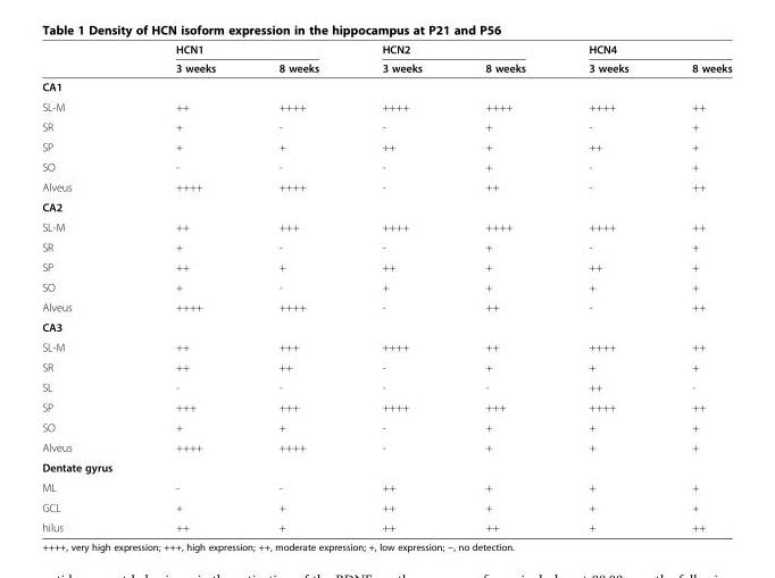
<table><thead><tr><td rowspan="2"></td><td colspan="2">HCN1</td><td colspan="2">HCN2</td><td colspan="2">HCN4</td></tr><tr><td>3 weeks</td><td>8 weeks</td><td>3 weeks</td><td>8 weeks</td><td>3 weeks</td><td>8 weeks</td></tr></thead><tbody><tr><td colspan="7">CA1</td></tr><tr><td>SL-M</td><td>++</td><td>++++</td><td>++++</td><td>++++</td><td>++++</td><td>++</td></tr><tr><td>SR</td><td>+</td><td>-</td><td>-</td><td>+</td><td>-</td><td>+</td></tr><tr><td>SP</td><td>+</td><td>+</td><td>++</td><td>+</td><td>++</td><td>+</td></tr><tr><td>SO</td><td>-</td><td>-</td><td>-</td><td>+</td><td>-</td><td>+</td></tr><tr><td>Alveus</td><td>++++</td><td>++++</td><td>-</td><td>++</td><td>-</td><td>++</td></tr><tr><td colspan="7">CA2</td></tr><tr><td>SL-M</td><td>++</td><td>+++</td><td>++++</td><td>++++</td><td>++++</td><td>++</td></tr><tr><td>SR</td><td>+</td><td>-</td><td>-</td><td>+</td><td>-</td><td>+</td></tr><tr><td>SP</td><td>++</td><td>+</td><td>++</td><td>+</td><td>++</td><td>+</td></tr><tr><td>SO</td><td>+</td><td>-</td><td>+</td><td>+</td><td>+</td><td>+</td></tr><tr><td>Alveus</td><td>++++</td><td>++++</td><td>-</td><td>++</td><td>-</td><td>++</td></tr><tr><td colspan="7">CA3</td></tr><tr><td>SL-M</td><td>++</td><td>+++</td><td>++++</td><td>++</td><td>++++</td><td>++</td></tr><tr><td>SR</td><td>++</td><td>++</td><td>-</td><td>+</td><td>+</td><td>+</td></tr><tr><td>SL</td><td>-</td><td>-</td><td>-</td><td>-</td><td>++</td><td>-</td></tr><tr><td>SP</td><td>+++</td><td>+++</td><td>++++</td><td>+++</td><td>++++</td><td>++</td></tr><tr><td>SO</td><td>+</td><td>+</td><td>-</td><td>+</td><td>+</td><td>+</td></tr><tr><td>Alveus</td><td>++++</td><td>++++</td><td>-</td><td>+</td><td>+</td><td>+</td></tr><tr><td colspan="7">Dentate gyrus</td></tr><tr><td>ML</td><td>-</td><td>-</td><td>++</td><td>+</td><td>+</td><td>+</td></tr><tr><td>GCL</td><td>+</td><td>+</td><td>++</td><td>+</td><td>+</td><td>+</td></tr><tr><td>hilus</td><td>++</td><td>+</td><td>++</td><td>++</td><td>+</td><td>++</td></tr></tbody></table>